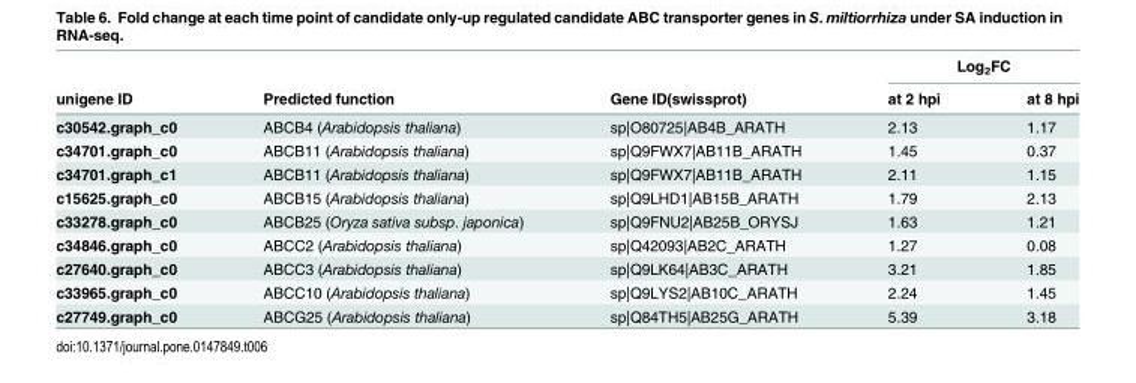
<table><thead><tr><td rowspan="2">unigene ID</td><td rowspan="2">Predicted function</td><td rowspan="2">Gene ID(swissprot)</td><td colspan="2">Log<sub>2</sub>FC</td></tr><tr><td>at 2 hpi</td><td>at 8 hpi</td></tr></thead><tbody><tr><td>c30542.graph_c0</td><td>ABCB4 (Arabidopsis thaliana)</td><td>sp|O80725|AB4B_ARATH</td><td>2.13</td><td>1.17</td></tr><tr><td>c34701.graph_c0</td><td>ABCB11 (Arabidopsis thaliana)</td><td>sp|Q9FWX7|AB11B_ARATH</td><td>1.45</td><td>0.37</td></tr><tr><td>c34701.graph_c1</td><td>ABCB11 (Arabidopsis thaliana)</td><td>sp|Q9FWX7|AB11B_ARATH</td><td>2.11</td><td>1.15</td></tr><tr><td>c15625.graph_c0</td><td>ABCB15 (Arabidopsis thaliana)</td><td>sp|Q9LHD1|AB15B_ARATH</td><td>1.79</td><td>2.13</td></tr><tr><td>c33278.graph_c0</td><td>ABCB25 (Oryza sativa subsp. japonica)</td><td>sp|Q9FNU2|AB25B_ORYSJ</td><td>1.63</td><td>1.21</td></tr><tr><td>c34846.graph_c0</td><td>ABCC2 (Arabidopsis thaliana)</td><td>sp|Q42093|AB2C_ARATH</td><td>1.27</td><td>0.08</td></tr><tr><td>c27640.graph_c0</td><td>ABCC3 (Arabidopsis thaliana)</td><td>sp|Q9LK64|AB3C_ARATH</td><td>3.21</td><td>1.85</td></tr><tr><td>c33965.graph_c0</td><td>ABCC10 (Arabidopsis thaliana)</td><td>sp|Q9LYS2|AB10C_ARATH</td><td>2.24</td><td>1.45</td></tr><tr><td>c27749.graph_c0</td><td>ABCG25 (Arabidopsis thaliana)</td><td>sp|Q84TH5|AB25G_ARATH</td><td>5.39</td><td>3.18</td></tr></tbody></table>